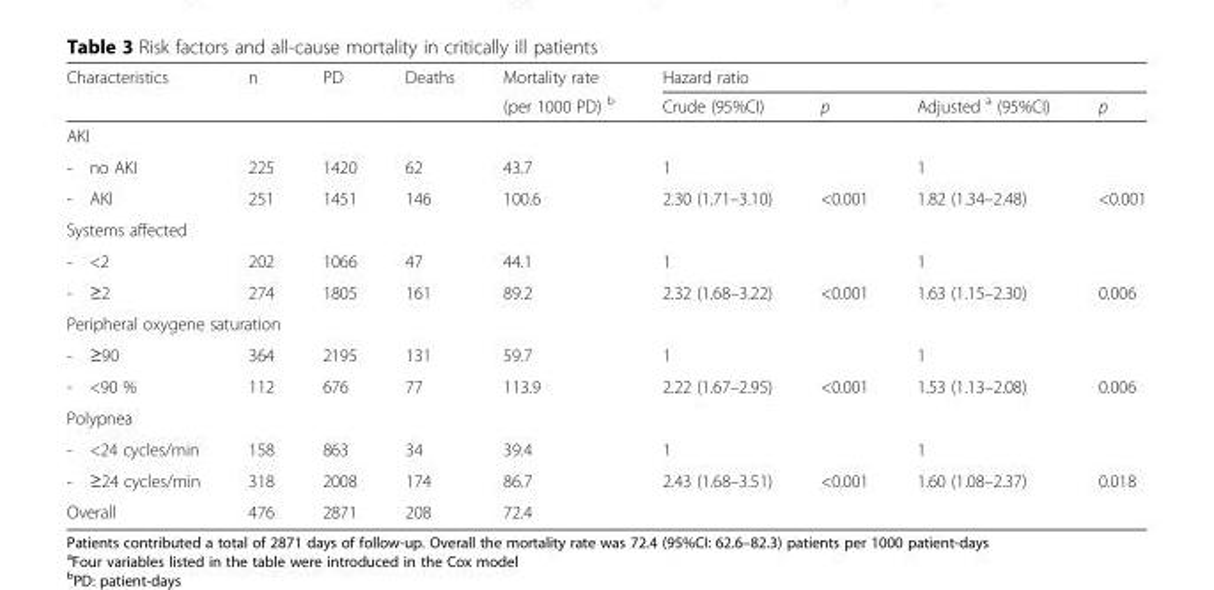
<table><thead><tr><td rowspan="2">Characteristics</td><td rowspan="2">n</td><td rowspan="2">PD</td><td rowspan="2">Deaths</td><td rowspan="2">Mortality rate (per 1000 PD) <sup>b</sup></td><td colspan="4">Hazard ratio</td></tr><tr><td>Crude (95%CI)</td><td>p</td><td>Adjusted <sup>a</sup> (95%CI)</td><td>p</td></tr></thead><tbody><tr><td colspan="9">AKI</td></tr><tr><td>- no AKI</td><td>225</td><td>1420</td><td>62</td><td>43.7</td><td>1</td><td></td><td>1</td><td></td></tr><tr><td>- AKI</td><td>251</td><td>1451</td><td>146</td><td>100.6</td><td>2.30 (1.71–3.10)</td><td>&lt;0.001</td><td>1.82 (1.34–2.48)</td><td>&lt;0.001</td></tr><tr><td colspan="9">Systems affected</td></tr><tr><td>- &lt;2</td><td>202</td><td>1066</td><td>47</td><td>44.1</td><td>1</td><td></td><td>1</td><td></td></tr><tr><td>- ≥2</td><td>274</td><td>1805</td><td>161</td><td>89.2</td><td>2.32 (1.68–3.22)</td><td>&lt;0.001</td><td>1.63 (1.15–2.30)</td><td>0.006</td></tr><tr><td colspan="9">Peripheral oxygene saturation</td></tr><tr><td>- ≥90</td><td>364</td><td>2195</td><td>131</td><td>59.7</td><td>1</td><td></td><td>1</td><td></td></tr><tr><td>- &lt;90 %</td><td>112</td><td>676</td><td>77</td><td>113.9</td><td>2.22 (1.67–2.95)</td><td>&lt;0.001</td><td>1.53 (1.13–2.08)</td><td>0.006</td></tr><tr><td colspan="9">Polypnea</td></tr><tr><td>- &lt;24 cycles/min</td><td>158</td><td>863</td><td>34</td><td>39.4</td><td>1</td><td></td><td>1</td><td></td></tr><tr><td>- ≥24 cycles/min</td><td>318</td><td>2008</td><td>174</td><td>86.7</td><td>2.43 (1.68–3.51)</td><td>&lt;0.001</td><td>1.60 (1.08–2.37)</td><td>0.018</td></tr><tr><td>Overall</td><td>476</td><td>2871</td><td>208</td><td>72.4</td><td></td><td></td><td></td><td></td></tr></tbody></table>